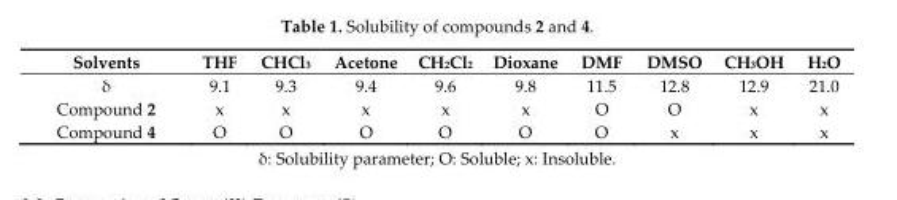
<table><thead><tr><td>Solvents</td><td>THF</td><td>CHCl<sub>3</sub></td><td>Acetone</td><td>CH<sub>2</sub>Cl<sub>2</sub></td><td>Dioxane</td><td>DMF</td><td>DMSO</td><td>CH<sub>3</sub>OH</td><td>H<sub>2</sub>O</td></tr></thead><tbody><tr><td>δ</td><td>9.1</td><td>9.3</td><td>9.4</td><td>9.6</td><td>9.8</td><td>11.5</td><td>12.8</td><td>12.9</td><td>21.0</td></tr><tr><td>Compound 2</td><td>x</td><td>x</td><td>x</td><td>x</td><td>x</td><td>O</td><td>O</td><td>x</td><td>x</td></tr><tr><td>Compound 4</td><td>O</td><td>O</td><td>O</td><td>O</td><td>O</td><td>O</td><td>x</td><td>x</td><td>x</td></tr></tbody></table>